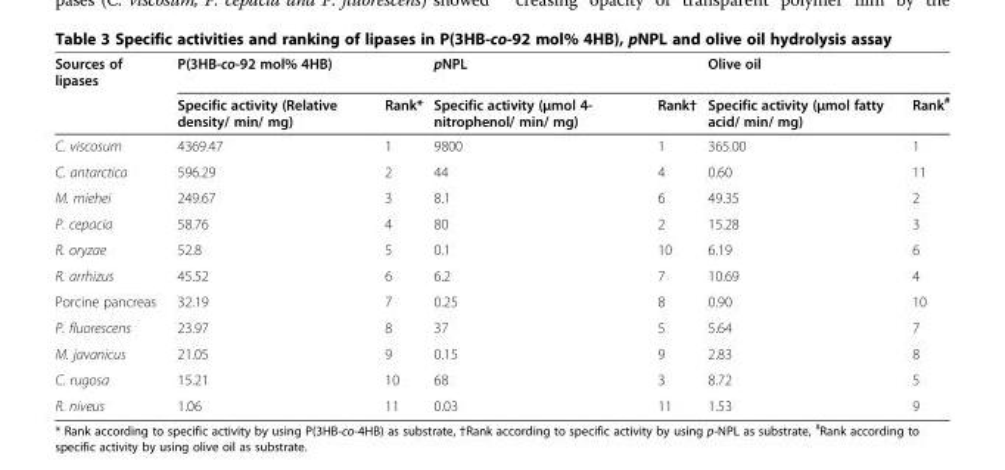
<table><thead><tr><td rowspan="2">Sources of lipases</td><td colspan="2">P(3HB-co-92 mol% 4HB)</td><td rowspan="2">pNPL Specific activity (μmol 4- nitrophenol/ min/ mg)</td><td rowspan="2">Rank†</td><td rowspan="2">Olive oil Specific activity (μmol fatty acid/ min/ mg)</td><td rowspan="2">Rank<sup>#</sup></td></tr><tr><td>Specific activity (Relative density/ min/ mg)</td><td>Rank*</td></tr></thead><tbody><tr><td>C. viscosum</td><td>4369.47</td><td>1</td><td>9800</td><td>1</td><td>365.00</td><td>1</td></tr><tr><td>C. antarctica</td><td>596.29</td><td>2</td><td>44</td><td>4</td><td>0.60</td><td>11</td></tr><tr><td>M. miehei</td><td>249.67</td><td>3</td><td>8.1</td><td>6</td><td>49.35</td><td>2</td></tr><tr><td>P. cepacia</td><td>58.76</td><td>4</td><td>80</td><td>2</td><td>15.28</td><td>3</td></tr><tr><td>R. oryzae</td><td>52.8</td><td>5</td><td>0.1</td><td>10</td><td>6.19</td><td>6</td></tr><tr><td>R. arrhizus</td><td>45.52</td><td>6</td><td>6.2</td><td>7</td><td>10.69</td><td>4</td></tr><tr><td>Porcine pancreas</td><td>32.19</td><td>7</td><td>0.25</td><td>8</td><td>0.90</td><td>10</td></tr><tr><td>P. fluorescens</td><td>23.97</td><td>8</td><td>37</td><td>5</td><td>5.64</td><td>7</td></tr><tr><td>M. javanicus</td><td>21.05</td><td>9</td><td>0.15</td><td>9</td><td>2.83</td><td>8</td></tr><tr><td>C. rugosa</td><td>15.21</td><td>10</td><td>68</td><td>3</td><td>8.72</td><td>5</td></tr><tr><td>R. niveus</td><td>1.06</td><td>11</td><td>0.03</td><td>11</td><td>1.53</td><td>9</td></tr></tbody></table>